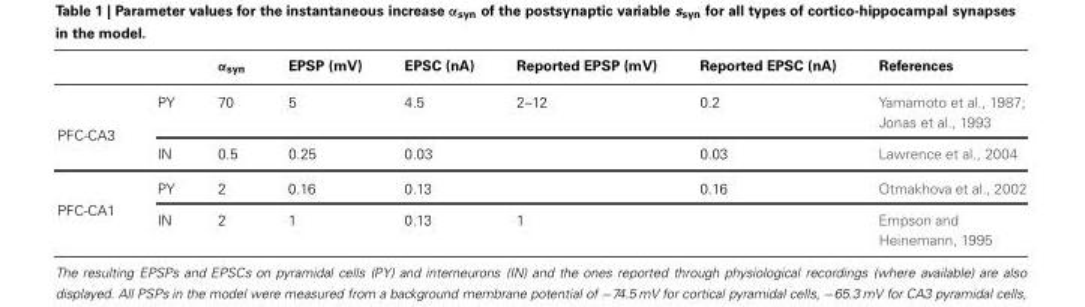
<table><thead><tr><td></td><td></td><td>α<sub>syn</sub></td><td>EPSP (mV)</td><td>EPSC (nA)</td><td>Reported EPSP (mV)</td><td>Reported EPSC (nA)</td><td>References</td></tr></thead><tbody><tr><td rowspan="2">PFC-CA3</td><td>PY</td><td>70</td><td>5</td><td>4.5</td><td>2–12</td><td>0.2</td><td>Yamamoto et al., 1987; Jonas et al., 1993</td></tr><tr><td>IN</td><td>0.5</td><td>0.25</td><td>0.03</td><td></td><td>0.03</td><td>Lawrence et al., 2004</td></tr><tr><td rowspan="2">PFC-CA1</td><td>PY</td><td>2</td><td>0.16</td><td>0.13</td><td></td><td>0.16</td><td>Otmakhova et al., 2002</td></tr><tr><td>IN</td><td>2</td><td>1</td><td>0.13</td><td>1</td><td></td><td>Empson and Heinemann, 1995</td></tr></tbody></table>